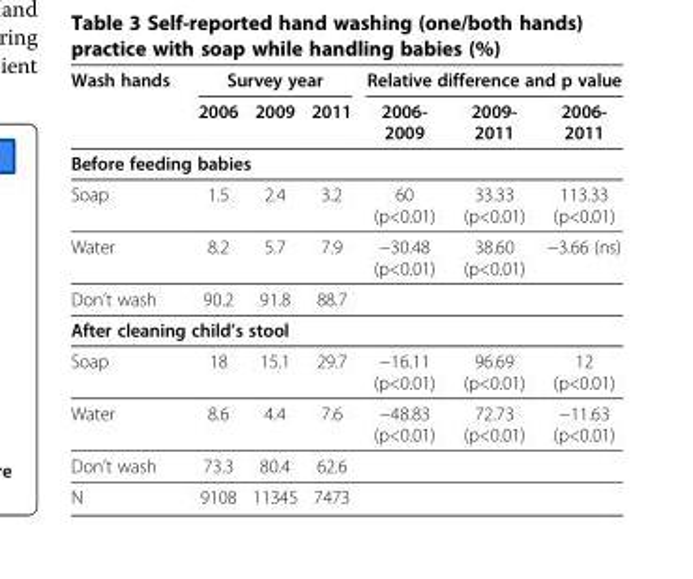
<table><thead><tr><td rowspan="2">Wash hands</td><td colspan="3">Survey year</td><td colspan="3">Relative difference and p value</td></tr><tr><td>2006</td><td>2009</td><td>2011</td><td>2006- 2009</td><td>2009- 2011</td><td>2006- 2011</td></tr></thead><tbody><tr><td colspan="7">Before feeding babies</td></tr><tr><td>Soap</td><td>1.5</td><td>2.4</td><td>3.2</td><td>60 (p&lt;0.01)</td><td>33.33 (p&lt;0.01)</td><td>113.33 (p&lt;0.01)</td></tr><tr><td>Water</td><td>8.2</td><td>5.7</td><td>7.9</td><td>−30.48 (p&lt;0.01)</td><td>38.60 (p&lt;0.01)</td><td>−3.66 (ns)</td></tr><tr><td>Don’t wash</td><td>90.2</td><td>91.8</td><td>88.7</td><td></td><td></td><td></td></tr><tr><td colspan="7">After cleaning child’s stool</td></tr><tr><td>Soap</td><td>18</td><td>15.1</td><td>29.7</td><td>−16.11 (p&lt;0.01)</td><td>96.69 (p&lt;0.01)</td><td>12 (p&lt;0.01)</td></tr><tr><td>Water</td><td>8.6</td><td>4.4</td><td>7.6</td><td>−48.83 (p&lt;0.01)</td><td>72.73 (p&lt;0.01)</td><td>−11.63 (p&lt;0.01)</td></tr><tr><td>Don’t wash</td><td>73.3</td><td>80.4</td><td>62.6</td><td></td><td></td><td></td></tr><tr><td>N</td><td>9108</td><td>11345</td><td>7473</td><td></td><td></td><td></td></tr></tbody></table>